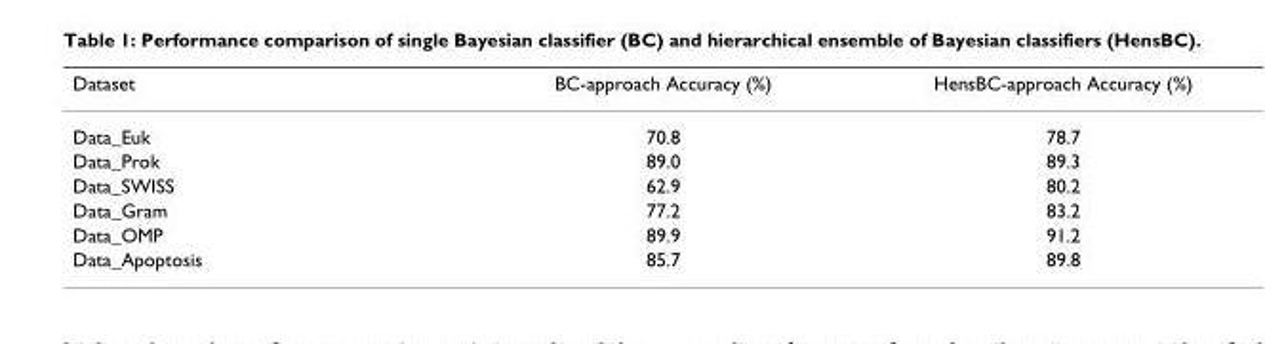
<table><thead><tr><td>Dataset</td><td>BC-approach Accuracy (%)</td><td>HensBC-approach Accuracy (%)</td></tr></thead><tbody><tr><td>Data_Euk</td><td>70.8</td><td>78.7</td></tr><tr><td>Data_Prok</td><td>89.0</td><td>89.3</td></tr><tr><td>Data_SWISS</td><td>62.9</td><td>80.2</td></tr><tr><td>Data_Gram</td><td>77.2</td><td>83.2</td></tr><tr><td>Data_OMP</td><td>89.9</td><td>91.2</td></tr><tr><td>Data_Apoptosis</td><td>85.7</td><td>89.8</td></tr></tbody></table>